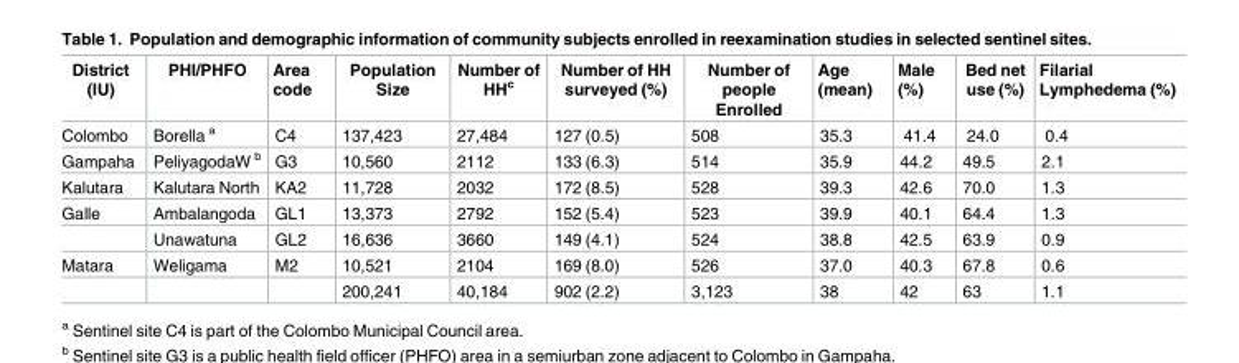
<table><thead><tr><td>District (IU)</td><td>PHI/PHFO</td><td>Area code</td><td>Population Size</td><td>Number of HH<sup>c</sup></td><td>Number of HH surveyed (%)</td><td>Number of people Enrolled</td><td>Age (mean)</td><td>Male (%)</td><td>Bed net use (%)</td><td>Filarial Lymphedema (%)</td></tr></thead><tbody><tr><td>Colombo</td><td>Borella <sup>a</sup></td><td>C4</td><td>137,423</td><td>27,484</td><td>127 (0.5)</td><td>508</td><td>35.3</td><td>41.4</td><td>24.0</td><td>0.4</td></tr><tr><td>Gampaha</td><td>PeliyagodaW <sup>b</sup></td><td>G3</td><td>10,560</td><td>2112</td><td>133 (6.3)</td><td>514</td><td>35.9</td><td>44.2</td><td>49.5</td><td>2.1</td></tr><tr><td>Kalutara</td><td>Kalutara North</td><td>KA2</td><td>11,728</td><td>2032</td><td>172 (8.5)</td><td>528</td><td>39.3</td><td>42.6</td><td>70.0</td><td>1.3</td></tr><tr><td rowspan="2">Galle</td><td>Ambalangoda</td><td>GL1</td><td>13,373</td><td>2792</td><td>152 (5.4)</td><td>523</td><td>39.9</td><td>40.1</td><td>64.4</td><td>1.3</td></tr><tr><td>Unawatuna</td><td>GL2</td><td>16,636</td><td>3660</td><td>149 (4.1)</td><td>524</td><td>38.8</td><td>42.5</td><td>63.9</td><td>0.9</td></tr><tr><td rowspan="2">Matara</td><td>Weligama</td><td>M2</td><td>10,521</td><td>2104</td><td>169 (8.0)</td><td>526</td><td>37.0</td><td>40.3</td><td>67.8</td><td>0.6</td></tr><tr><td></td><td></td><td>200,241</td><td>40,184</td><td>902 (2.2)</td><td>3,123</td><td>38</td><td>42</td><td>63</td><td>1.1</td></tr></tbody></table>